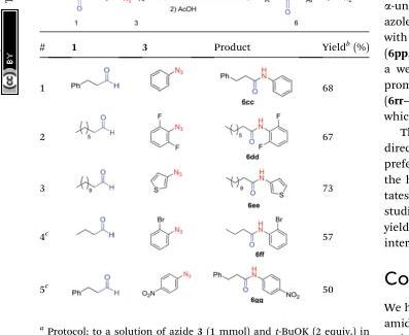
<table><thead><tr><td>#</td><td>1</td><td>3</td><td>Product</td><td>Yield<sup>b</sup> (%)</td></tr></thead><tbody><tr><td>1</td><td></td><td></td><td></td><td>68</td></tr><tr><td>2</td><td></td><td></td><td></td><td>67</td></tr><tr><td>3</td><td></td><td></td><td></td><td>73</td></tr><tr><td>4<sup>c</sup></td><td></td><td></td><td></td><td>57</td></tr><tr><td>5<sup>c</sup></td><td></td><td></td><td></td><td>50</td></tr></tbody></table>